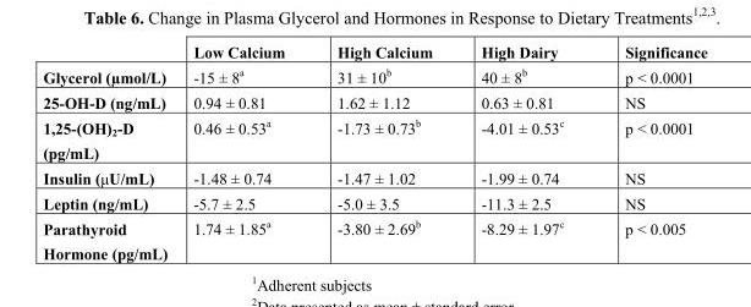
<table><thead><tr><td></td><td>Low Calcium</td><td>High Calcium</td><td>High Dairy</td><td>Significance</td></tr></thead><tbody><tr><td>Glycerol (µmol/L)</td><td>-15 ± 8<sup>a</sup></td><td>31 ± 10<sup>b</sup></td><td>40 ± 8<sup>b</sup></td><td>p &lt; 0.0001</td></tr><tr><td>25-OH-D (ng/mL)</td><td>0.94 ± 0.81</td><td>1.62 ± 1.12</td><td>0.63 ± 0.81</td><td>NS</td></tr><tr><td>1,25-(OH)<sub>2</sub>-D (pg/mL)</td><td>0.46 ± 0.53<sup>a</sup></td><td>-1.73 ± 0.73<sup>b</sup></td><td>-4.01 ± 0.53<sup>c</sup></td><td>p &lt; 0.0001</td></tr><tr><td>Insulin (μU/mL)</td><td>-1.48 ± 0.74</td><td>-1.47 ± 1.02</td><td>-1.99 ± 0.74</td><td>NS</td></tr><tr><td>Leptin (ng/mL)</td><td>-5.7 ± 2.5</td><td>-5.0 ± 3.5</td><td>-11.3 ± 2.5</td><td>NS</td></tr><tr><td>Parathyroid Hormone (pg/mL)</td><td>1.74 ± 1.85<sup>a</sup></td><td>-3.80 ± 2.69<sup>b</sup></td><td>-8.29 ± 1.97<sup>c</sup></td><td>p &lt; 0.005</td></tr></tbody></table>